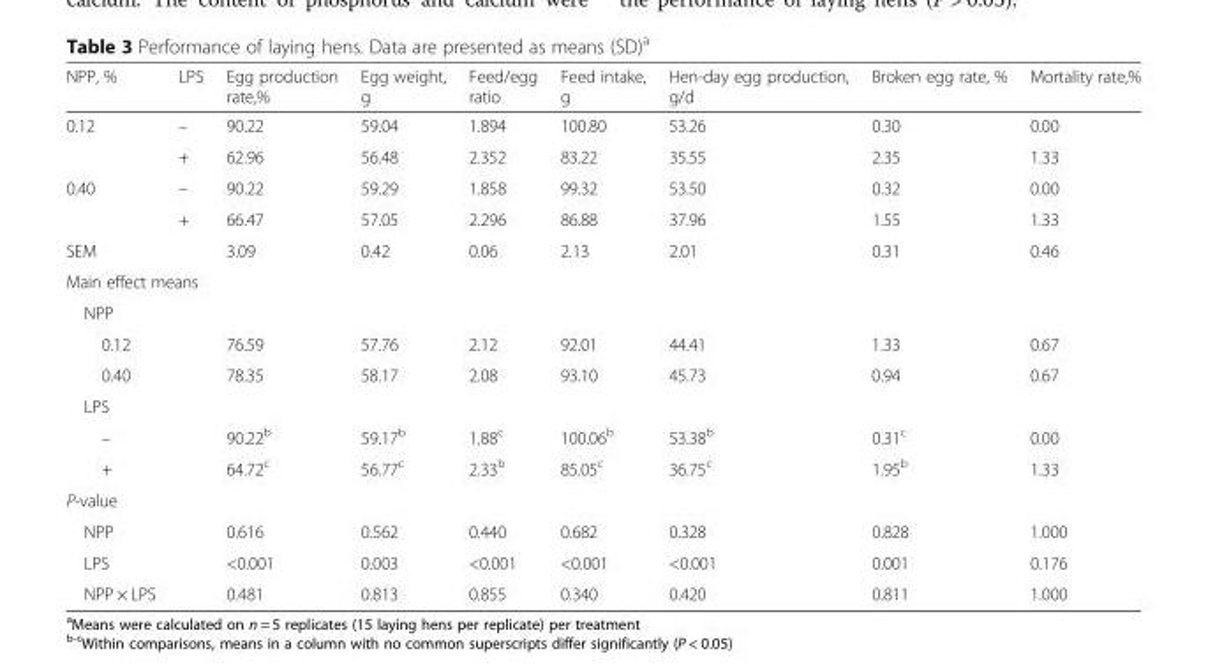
<table><thead><tr><td>NPP, %</td><td>LPS</td><td>Egg production rate,%</td><td>Egg weight, g</td><td>Feed/egg ratio</td><td>Feed intake, g</td><td>Hen-day egg production, g/d</td><td>Broken egg rate, %</td><td>Mortality rate,%</td></tr></thead><tbody><tr><td rowspan="2">0.12</td><td>–</td><td>90.22</td><td>59.04</td><td>1.894</td><td>100.80</td><td>53.26</td><td>0.30</td><td>0.00</td></tr><tr><td>+</td><td>62.96</td><td>56.48</td><td>2.352</td><td>83.22</td><td>35.55</td><td>2.35</td><td>1.33</td></tr><tr><td rowspan="2">0.40</td><td>–</td><td>90.22</td><td>59.29</td><td>1.858</td><td>99.32</td><td>53.50</td><td>0.32</td><td>0.00</td></tr><tr><td>+</td><td>66.47</td><td>57.05</td><td>2.296</td><td>86.88</td><td>37.96</td><td>1.55</td><td>1.33</td></tr><tr><td>SEM</td><td></td><td>3.09</td><td>0.42</td><td>0.06</td><td>2.13</td><td>2.01</td><td>0.31</td><td>0.46</td></tr><tr><td colspan="9">Main effect means</td></tr><tr><td colspan="9">NPP</td></tr><tr><td>0.12</td><td></td><td>76.59</td><td>57.76</td><td>2.12</td><td>92.01</td><td>44.41</td><td>1.33</td><td>0.67</td></tr><tr><td>0.40</td><td></td><td>78.35</td><td>58.17</td><td>2.08</td><td>93.10</td><td>45.73</td><td>0.94</td><td>0.67</td></tr><tr><td colspan="9">LPS</td></tr><tr><td>–</td><td></td><td>90.22<sup>b</sup></td><td>59.17<sup>b</sup></td><td>1.88<sup>c</sup></td><td>100.06<sup>b</sup></td><td>53.38<sup>b</sup></td><td>0.31<sup>c</sup></td><td>0.00</td></tr><tr><td>+</td><td></td><td>64.72<sup>c</sup></td><td>56.77<sup>c</sup></td><td>2.33<sup>b</sup></td><td>85.05<sup>c</sup></td><td>36.75<sup>c</sup></td><td>1.95<sup>b</sup></td><td>1.33</td></tr><tr><td colspan="9">P-value</td></tr><tr><td>NPP</td><td></td><td>0.616</td><td>0.562</td><td>0.440</td><td>0.682</td><td>0.328</td><td>0.828</td><td>1.000</td></tr><tr><td>LPS</td><td></td><td>&lt;0.001</td><td>0.003</td><td>&lt;0.001</td><td>&lt;0.001</td><td>&lt;0.001</td><td>0.001</td><td>0.176</td></tr><tr><td>NPP × LPS</td><td></td><td>0.481</td><td>0.813</td><td>0.855</td><td>0.340</td><td>0.420</td><td>0.811</td><td>1.000</td></tr></tbody></table>